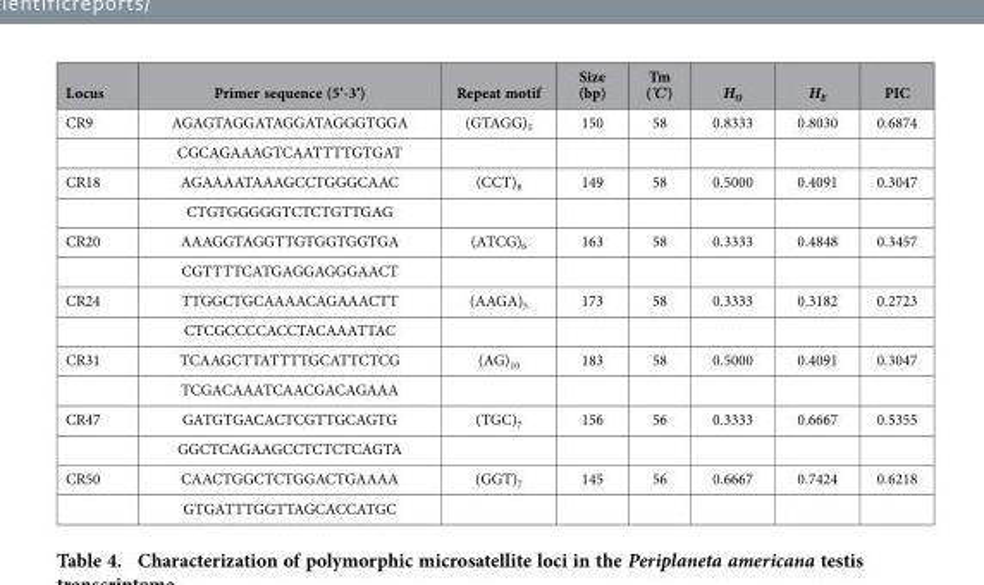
<table><thead><tr><td>Locus</td><td>Primer sequence (5’-3’)</td><td>Repeat motif</td><td>Size (bp)</td><td>Tm (˚C )</td><td>H<sub>O</sub></td><td>H<sub>E</sub></td><td>PIC</td></tr></thead><tbody><tr><td rowspan="2">CR9</td><td>AGAGTAGGATAGGATAGGGTGGA</td><td>(GTAGG)<sub>5</sub></td><td>150</td><td>58</td><td>0.8333</td><td>0.8030</td><td>0.6874</td></tr><tr><td>CGCAGAAAGTCAATTTTGTGAT</td><td></td><td></td><td></td><td></td><td></td><td></td></tr><tr><td rowspan="2">CR18</td><td>AGAAAATAAAGCCTGGGCAAC</td><td>(CCT)<sub>8</sub></td><td>149</td><td>58</td><td>0.5000</td><td>0.4091</td><td>0.3047</td></tr><tr><td>CTGTGGGGGTCTCTGTTGAG</td><td></td><td></td><td></td><td></td><td></td><td></td></tr><tr><td rowspan="2">CR20</td><td>AAAGGTAGGTTGTGGTGGTGA</td><td>(ATCG)<sub>6</sub></td><td>163</td><td>58</td><td>0.3333</td><td>0.4848</td><td>0.3457</td></tr><tr><td>CGTTTTCATGAGGAGGGAACT</td><td></td><td></td><td></td><td></td><td></td><td></td></tr><tr><td rowspan="2">CR24</td><td>TTGGCTGCAAAACAGAAACTT</td><td>(AAGA)<sub>5</sub></td><td>173</td><td>58</td><td>0.3333</td><td>0.3182</td><td>0.2723</td></tr><tr><td>CTCGCCCCACCTACAAATTAC</td><td></td><td></td><td></td><td></td><td></td><td></td></tr><tr><td rowspan="2">CR31</td><td>TCAAGCTTATTTTGCATTCTCG</td><td>(AG)<sub>10</sub></td><td>183</td><td>58</td><td>0.5000</td><td>0.4091</td><td>0.3047</td></tr><tr><td>TCGACAAATCAACGACAGAAA</td><td></td><td></td><td></td><td></td><td></td><td></td></tr><tr><td rowspan="2">CR47</td><td>GATGTGACACTCGTTGCAGTG</td><td>(TGC)<sub>7</sub></td><td>156</td><td>56</td><td>0.3333</td><td>0.6667</td><td>0.5355</td></tr><tr><td>GGCTCAGAAGCCTCTCTCAGTA</td><td></td><td></td><td></td><td></td><td></td><td></td></tr><tr><td rowspan="2">CR50</td><td>CAACTGGCTCTGGACTGAAAA</td><td>(GGT)<sub>7</sub></td><td>145</td><td>56</td><td>0.6667</td><td>0.7424</td><td>0.6218</td></tr><tr><td>GTGATTTGGTTAGCACCATGC</td><td></td><td></td><td></td><td></td><td></td><td></td></tr></tbody></table>